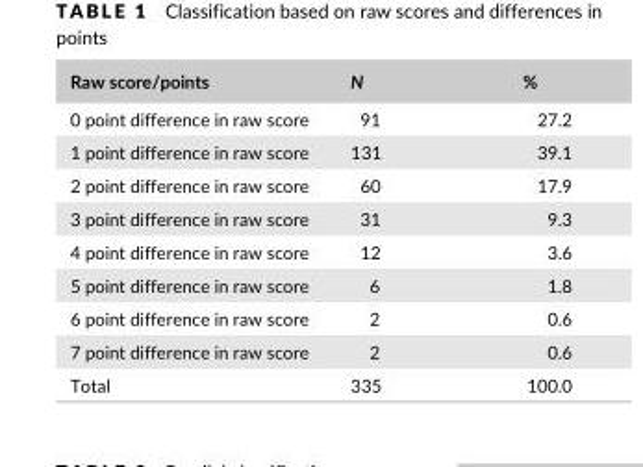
<table><thead><tr><td>Raw score/points</td><td>N</td><td>%</td></tr></thead><tbody><tr><td>0 point difference in raw score</td><td>91</td><td>27.2</td></tr><tr><td>1 point difference in raw score</td><td>131</td><td>39.1</td></tr><tr><td>2 point difference in raw score</td><td>60</td><td>17.9</td></tr><tr><td>3 point difference in raw score</td><td>31</td><td>9.3</td></tr><tr><td>4 point difference in raw score</td><td>12</td><td>3.6</td></tr><tr><td>5 point difference in raw score</td><td>6</td><td>1.8</td></tr><tr><td>6 point difference in raw score</td><td>2</td><td>0.6</td></tr><tr><td>7 point difference in raw score</td><td>2</td><td>0.6</td></tr><tr><td>Total</td><td>335</td><td>100.0</td></tr></tbody></table>